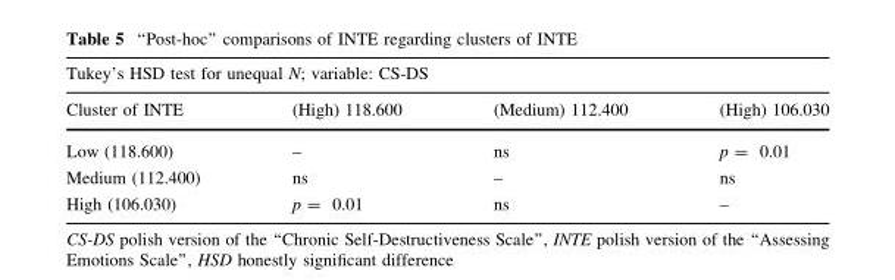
<table><thead><tr><td colspan="4">Tukey’s HSD test for unequal N; variable: CS-DS</td></tr><tr><td>Cluster of INTE</td><td>(High) 118.600</td><td>(Medium) 112.400</td><td>(High) 106.030</td></tr></thead><tbody><tr><td>Low (118.600)</td><td>–</td><td>ns</td><td>p = 0.01</td></tr><tr><td>Medium (112.400)</td><td>ns</td><td>–</td><td>ns</td></tr><tr><td>High (106.030)</td><td>p = 0.01</td><td>ns</td><td>–</td></tr></tbody></table>